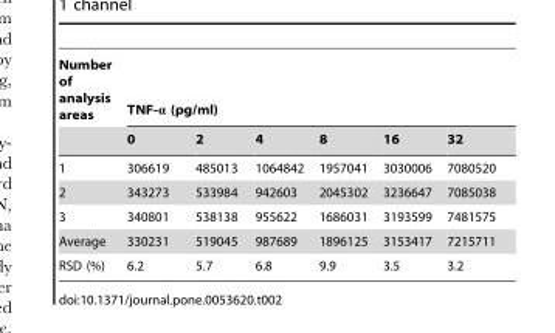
<table><thead><tr><td rowspan="2">Number of analysis areas</td><td colspan="6">TNF-α (pg/ml)</td></tr><tr><td>0</td><td>2</td><td>4</td><td>8</td><td>16</td><td>32</td></tr></thead><tbody><tr><td>1</td><td>306619</td><td>485013</td><td>1064842</td><td>1957041</td><td>3030006</td><td>7080520</td></tr><tr><td>2</td><td>343273</td><td>533984</td><td>942603</td><td>2045302</td><td>3236647</td><td>7085038</td></tr><tr><td>3</td><td>340801</td><td>538138</td><td>955622</td><td>1686031</td><td>3193599</td><td>7481575</td></tr><tr><td>Average</td><td>330231</td><td>519045</td><td>987689</td><td>1896125</td><td>3153417</td><td>7215711</td></tr><tr><td>RSD (%)</td><td>6.2</td><td>5.7</td><td>6.8</td><td>9.9</td><td>3.5</td><td>3.2</td></tr></tbody></table>